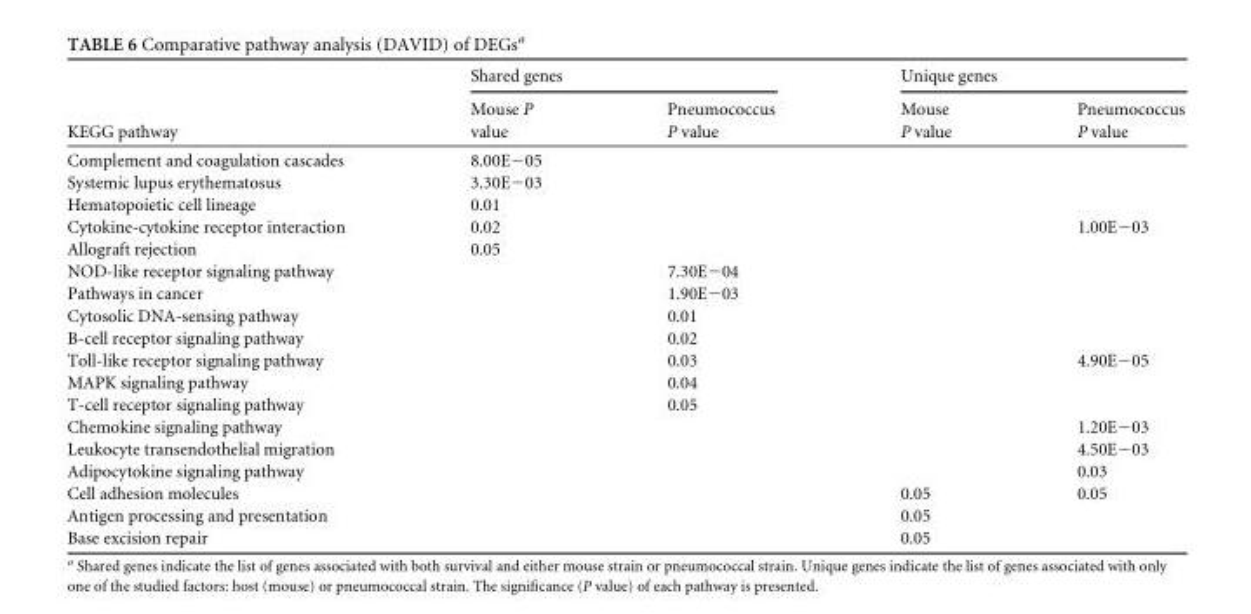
<table><thead><tr><td rowspan="2">KEGG pathway</td><td colspan="2">Shared genes</td><td colspan="2">Unique genes</td></tr><tr><td>Mouse P value</td><td>Pneumococcus P value</td><td>Mouse P value</td><td>Pneumococcus P value</td></tr></thead><tbody><tr><td>Complement and coagulation cascades</td><td>8.00E−05</td><td></td><td></td><td></td></tr><tr><td>Systemic lupus erythematosus</td><td>3.30E−03</td><td></td><td></td><td></td></tr><tr><td>Hematopoietic cell lineage</td><td>0.01</td><td></td><td></td><td></td></tr><tr><td>Cytokine-cytokine receptor interaction</td><td>0.02</td><td></td><td></td><td>1.00E−03</td></tr><tr><td>Allograft rejection</td><td>0.05</td><td></td><td></td><td></td></tr><tr><td>NOD-like receptor signaling pathway</td><td></td><td>7.30E−04</td><td></td><td></td></tr><tr><td>Pathways in cancer</td><td></td><td>1.90E−03</td><td></td><td></td></tr><tr><td>Cytosolic DNA-sensing pathway</td><td></td><td>0.01</td><td></td><td></td></tr><tr><td>B-cell receptor signaling pathway</td><td></td><td>0.02</td><td></td><td></td></tr><tr><td>Toll-like receptor signaling pathway</td><td></td><td>0.03</td><td></td><td>4.90E−05</td></tr><tr><td>MAPK signaling pathway</td><td></td><td>0.04</td><td></td><td></td></tr><tr><td>T-cell receptor signaling pathway</td><td></td><td>0.05</td><td></td><td></td></tr><tr><td>Chemokine signaling pathway</td><td></td><td></td><td></td><td>1.20E−03</td></tr><tr><td>Leukocyte transendothelial migration</td><td></td><td></td><td></td><td>4.50E−03</td></tr><tr><td>Adipocytokine signaling pathway</td><td></td><td></td><td></td><td>0.03</td></tr><tr><td>Cell adhesion molecules</td><td></td><td></td><td>0.05</td><td>0.05</td></tr><tr><td>Antigen processing and presentation</td><td></td><td></td><td>0.05</td><td></td></tr><tr><td>Base excision repair</td><td></td><td></td><td>0.05</td><td></td></tr></tbody></table>